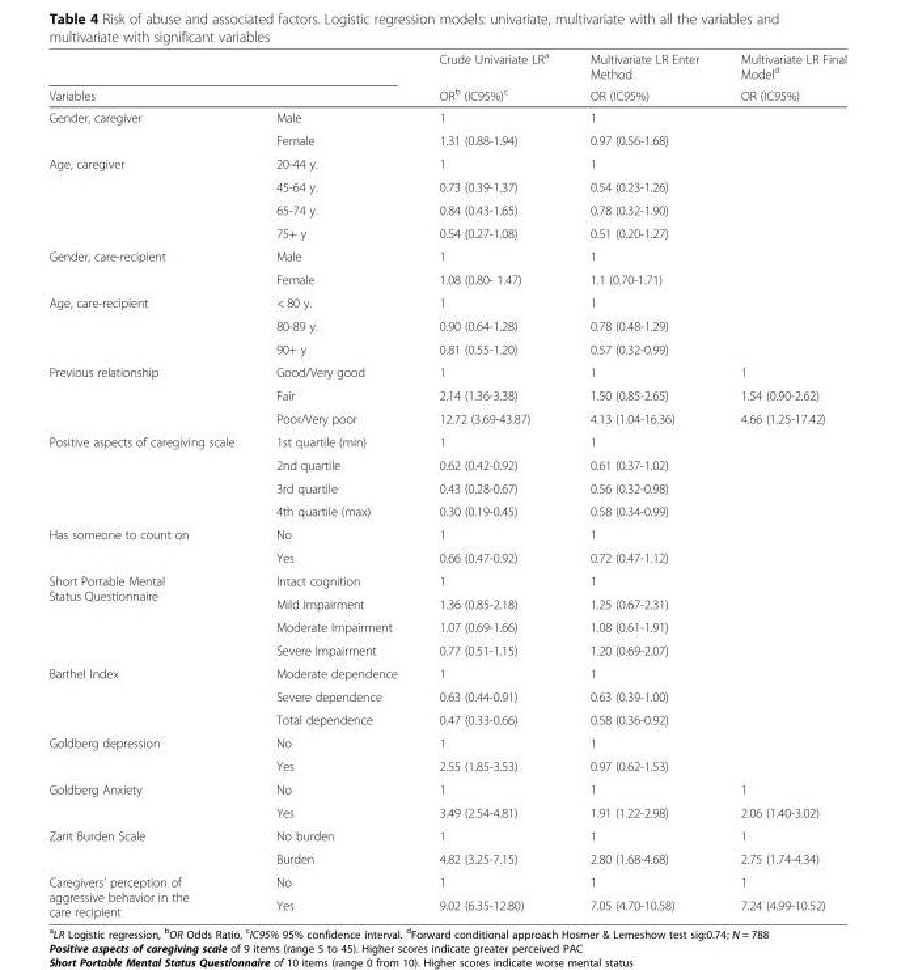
<table><thead><tr><td></td><td></td><td rowspan="2">Crude Univariate LR<sup>a</sup> OR<sup>b</sup> (IC95%)<sup>c</sup></td><td rowspan="2">Multivariate LR Enter Method OR (IC95%)</td><td rowspan="2">Multivariate LR Final Model<sup>d</sup> OR (IC95%)</td></tr><tr><td colspan="2">Variables</td></tr></thead><tbody><tr><td rowspan="2">Gender, caregiver</td><td>Male</td><td>1</td><td>1</td><td></td></tr><tr><td>Female</td><td>1.31 (0.88-1.94)</td><td>0.97 (0.56-1.68)</td><td></td></tr><tr><td rowspan="4">Age, caregiver</td><td>20-44 y.</td><td>1</td><td>1</td><td></td></tr><tr><td>45-64 y.</td><td>0.73 (0.39-1.37)</td><td>0.54 (0.23-1.26)</td><td></td></tr><tr><td>65-74 y.</td><td>0.84 (0.43-1.65)</td><td>0.78 (0.32-1.90)</td><td></td></tr><tr><td>75+ y</td><td>0.54 (0.27-1.08)</td><td>0.51 (0.20-1.27)</td><td></td></tr><tr><td rowspan="2">Gender, care-recipient</td><td>Male</td><td>1</td><td>1</td><td></td></tr><tr><td>Female</td><td>1.08 (0.80- 1.47)</td><td>1.1 (0.70-1.71)</td><td></td></tr><tr><td rowspan="3">Age, care-recipient</td><td>&lt; 80 y.</td><td>1</td><td>1</td><td></td></tr><tr><td>80-89 y.</td><td>0.90 (0.64-1.28)</td><td>0.78 (0.48-1.29)</td><td></td></tr><tr><td>90+ y</td><td>0.81 (0.55-1.20)</td><td>0.57 (0.32-0.99)</td><td></td></tr><tr><td rowspan="3">Previous relationship</td><td>Good/Very good</td><td>1</td><td>1</td><td>1</td></tr><tr><td>Fair</td><td>2.14 (1.36-3.38)</td><td>1.50 (0.85-2.65)</td><td>1.54 (0.90-2.62)</td></tr><tr><td>Poor/Very poor</td><td>12.72 (3.69-43.87)</td><td>4.13 (1.04-16.36)</td><td>4.66 (1.25-17.42)</td></tr><tr><td rowspan="4">Positive aspects of caregiving scale</td><td>1st quartile (min)</td><td>1</td><td>1</td><td></td></tr><tr><td>2nd quartile</td><td>0.62 (0.42-0.92)</td><td>0.61 (0.37-1.02)</td><td></td></tr><tr><td>3rd quartile</td><td>0.43 (0.28-0.67)</td><td>0.56 (0.32-0.98)</td><td></td></tr><tr><td>4th quartile (max)</td><td>0.30 (0.19-0.45)</td><td>0.58 (0.34-0.99)</td><td></td></tr><tr><td rowspan="2">Has someone to count on</td><td>No</td><td>1</td><td>1</td><td></td></tr><tr><td>Yes</td><td>0.66 (0.47-0.92)</td><td>0.72 (0.47-1.12)</td><td></td></tr><tr><td rowspan="4">Short Portable Mental Status Questionnaire</td><td>Intact cognition</td><td>1</td><td>1</td><td></td></tr><tr><td>Mild Impairment</td><td>1.36 (0.85-2.18)</td><td>1.25 (0.67-2.31)</td><td></td></tr><tr><td>Moderate Impairment</td><td>1.07 (0.69-1.66)</td><td>1.08 (0.61-1.91)</td><td></td></tr><tr><td>Severe Impairment</td><td>0.77 (0.51-1.15)</td><td>1.20 (0.69-2.07)</td><td></td></tr><tr><td rowspan="3">Barthel Index</td><td>Moderate dependence</td><td>1</td><td>1</td><td></td></tr><tr><td>Severe dependence</td><td>0.63 (0.44-0.91)</td><td>0.63 (0.39-1.00)</td><td></td></tr><tr><td>Total dependence</td><td>0.47 (0.33-0.66)</td><td>0.58 (0.36-0.92)</td><td></td></tr><tr><td rowspan="2">Goldberg depression</td><td>No</td><td>1</td><td>1</td><td></td></tr><tr><td>Yes</td><td>2.55 (1.85-3.53)</td><td>0.97 (0.62-1.53)</td><td></td></tr><tr><td rowspan="2">Goldberg Anxiety</td><td>No</td><td>1</td><td>1</td><td>1</td></tr><tr><td>Yes</td><td>3.49 (2.54-4.81)</td><td>1.91 (1.22-2.98)</td><td>2.06 (1.40-3.02)</td></tr><tr><td rowspan="2">Zarit Burden Scale</td><td>No burden</td><td>1</td><td>1</td><td>1</td></tr><tr><td>Burden</td><td>4.82 (3.25-7.15)</td><td>2.80 (1.68-4.68)</td><td>2.75 (1.74-4.34)</td></tr><tr><td rowspan="2">Caregivers’ perception of aggressive behavior in the care recipient</td><td>No</td><td>1</td><td>1</td><td>1</td></tr><tr><td>Yes</td><td>9.02 (6.35-12.80)</td><td>7.05 (4.70-10.58)</td><td>7.24 (4.99-10.52)</td></tr></tbody></table>